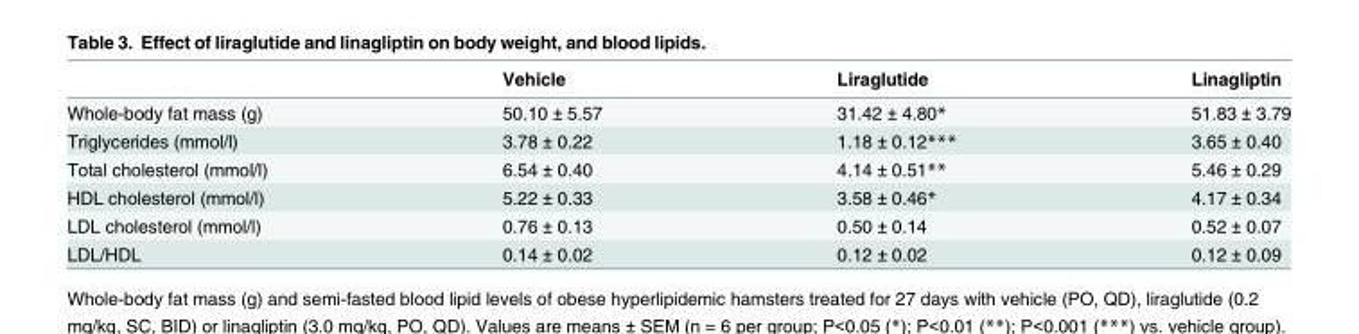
<table><thead><tr><td></td><td>Vehicle</td><td>Liraglutide</td><td>Linagliptin</td></tr></thead><tbody><tr><td>Whole-body fat mass (g)</td><td>50.10 ± 5.57</td><td>31.42 ± 4.80*</td><td>51.83 ± 3.79</td></tr><tr><td>Triglycerides (mmol/l)</td><td>3.78 ± 0.22</td><td>1.18 ± 0.12***</td><td>3.65 ± 0.40</td></tr><tr><td>Total cholesterol (mmol/l)</td><td>6.54 ± 0.40</td><td>4.14 ± 0.51**</td><td>5.46 ± 0.29</td></tr><tr><td>HDL cholesterol (mmol/l)</td><td>5.22 ± 0.33</td><td>3.58 ± 0.46*</td><td>4.17 ± 0.34</td></tr><tr><td>LDL cholesterol (mmol/l)</td><td>0.76 ± 0.13</td><td>0.50 ± 0.14</td><td>0.52 ± 0.07</td></tr><tr><td>LDL/HDL</td><td>0.14 ± 0.02</td><td>0.12 ± 0.02</td><td>0.12 ± 0.09</td></tr></tbody></table>